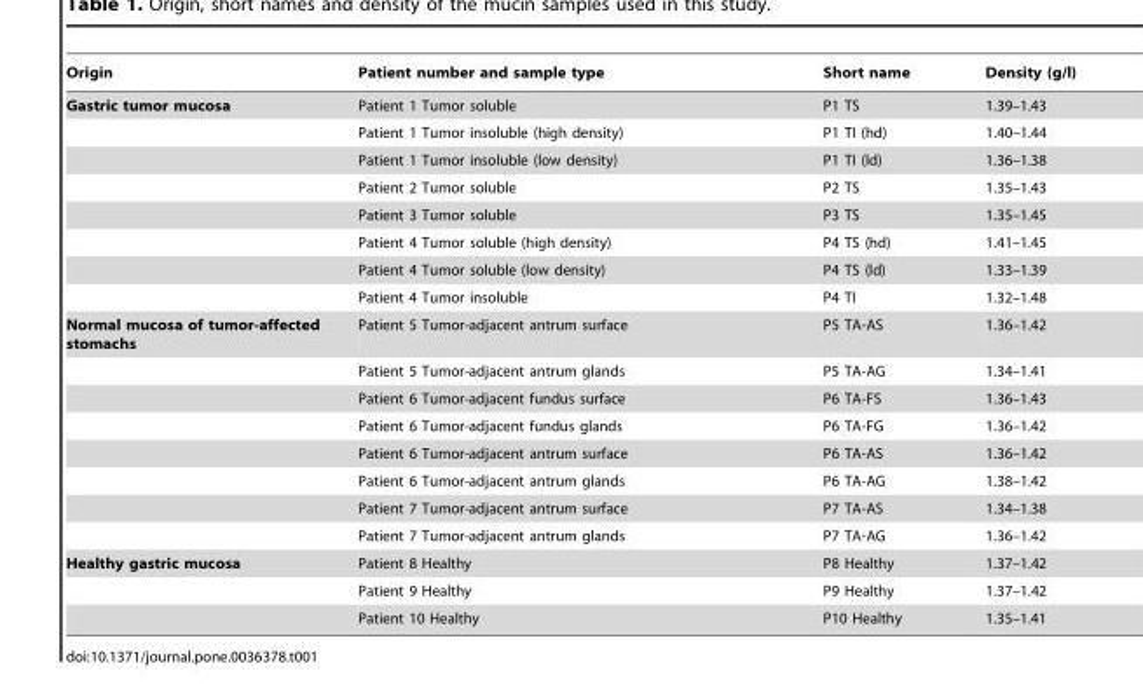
<table><thead><tr><td>Origin</td><td>Patient number and sample type</td><td>Short name</td><td>Density (g/l)</td></tr></thead><tbody><tr><td rowspan="8">Gastric tumor mucosa</td><td>Patient 1 Tumor soluble</td><td>P1 TS</td><td>1.39–1.43</td></tr><tr><td>Patient 1 Tumor insoluble (high density)</td><td>P1 TI (hd)</td><td>1.40–1.44</td></tr><tr><td>Patient 1 Tumor insoluble (low density)</td><td>P1 TI (ld)</td><td>1.36–1.38</td></tr><tr><td>Patient 2 Tumor soluble</td><td>P2 TS</td><td>1.35–1.43</td></tr><tr><td>Patient 3 Tumor soluble</td><td>P3 TS</td><td>1.35–1.45</td></tr><tr><td>Patient 4 Tumor soluble (high density)</td><td>P4 TS (hd)</td><td>1.41–1.45</td></tr><tr><td>Patient 4 Tumor soluble (low density)</td><td>P4 TS (ld)</td><td>1.33–1.39</td></tr><tr><td>Patient 4 Tumor insoluble</td><td>P4 TI</td><td>1.32–1.48</td></tr><tr><td rowspan="8">Normal mucosa of tumor-affected stomachs</td><td>Patient 5 Tumor-adjacent antrum surface</td><td>P5 TA-AS</td><td>1.36–1.42</td></tr><tr><td>Patient 5 Tumor-adjacent antrum glands</td><td>P5 TA-AG</td><td>1.34–1.41</td></tr><tr><td>Patient 6 Tumor-adjacent fundus surface</td><td>P6 TA-FS</td><td>1.36–1.43</td></tr><tr><td>Patient 6 Tumor-adjacent fundus glands</td><td>P6 TA-FG</td><td>1.36–1.42</td></tr><tr><td>Patient 6 Tumor-adjacent antrum surface</td><td>P6 TA-AS</td><td>1.36–1.42</td></tr><tr><td>Patient 6 Tumor-adjacent antrum glands</td><td>P6 TA-AG</td><td>1.38–1.42</td></tr><tr><td>Patient 7 Tumor-adjacent antrum surface</td><td>P7 TA-AS</td><td>1.34–1.38</td></tr><tr><td>Patient 7 Tumor-adjacent antrum glands</td><td>P7 TA-AG</td><td>1.36–1.42</td></tr><tr><td rowspan="3">Healthy gastric mucosa</td><td>Patient 8 Healthy</td><td>P8 Healthy</td><td>1.37–1.42</td></tr><tr><td>Patient 9 Healthy</td><td>P9 Healthy</td><td>1.37–1.42</td></tr><tr><td>Patient 10 Healthy</td><td>P10 Healthy</td><td>1.35–1.41</td></tr></tbody></table>